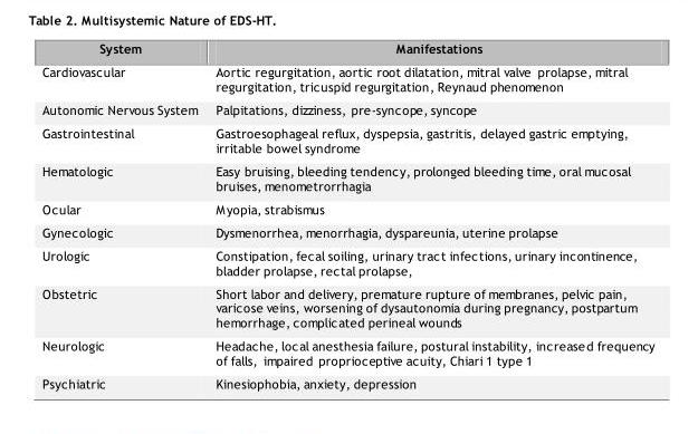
<table><thead><tr><td>System</td><td>Manifestations</td></tr></thead><tbody><tr><td>Cardiovascular</td><td>Aortic regurgitation, aortic root dilatation, mitral valve prolapse, mitral regurgitation, tricuspid regurgitation, Reynaud phenomenon</td></tr><tr><td>Autonomic Nervous System</td><td>Palpitations, dizziness, pre-syncope, syncope</td></tr><tr><td>Gastrointestinal</td><td>Gastroesophageal reflux, dyspepsia, gastritis, delayed gastric emptying, irritable bowel syndrome</td></tr><tr><td>Hematologic</td><td>Easy bruising, bleeding tendency, prolonged bleeding time, oral mucosal bruises, menometrorrhagia</td></tr><tr><td>Ocular</td><td>Myopia, strabismus</td></tr><tr><td>Gynecologic</td><td>Dysmenorrhea, menorrhagia, dyspareunia, uterine prolapse</td></tr><tr><td>Urologic</td><td>Constipation, fecal soiling, urinary tract infections, urinary incontinence, bladder prolapse, rectal prolapse,</td></tr><tr><td>Obstetric</td><td>Short labor and delivery, premature rupture of membranes, pelvic pain, varicose veins, worsening of dysautonomia during pregnancy, postpartum hemorrhage, complicated perineal wounds</td></tr><tr><td>Neurologic</td><td>Headache, local anesthesia failure, postural instability, increased frequency of falls, impaired proprioceptive acuity, Chiari 1 type 1</td></tr><tr><td>Psychiatric</td><td>Kinesiophobia, anxiety, depression</td></tr></tbody></table>